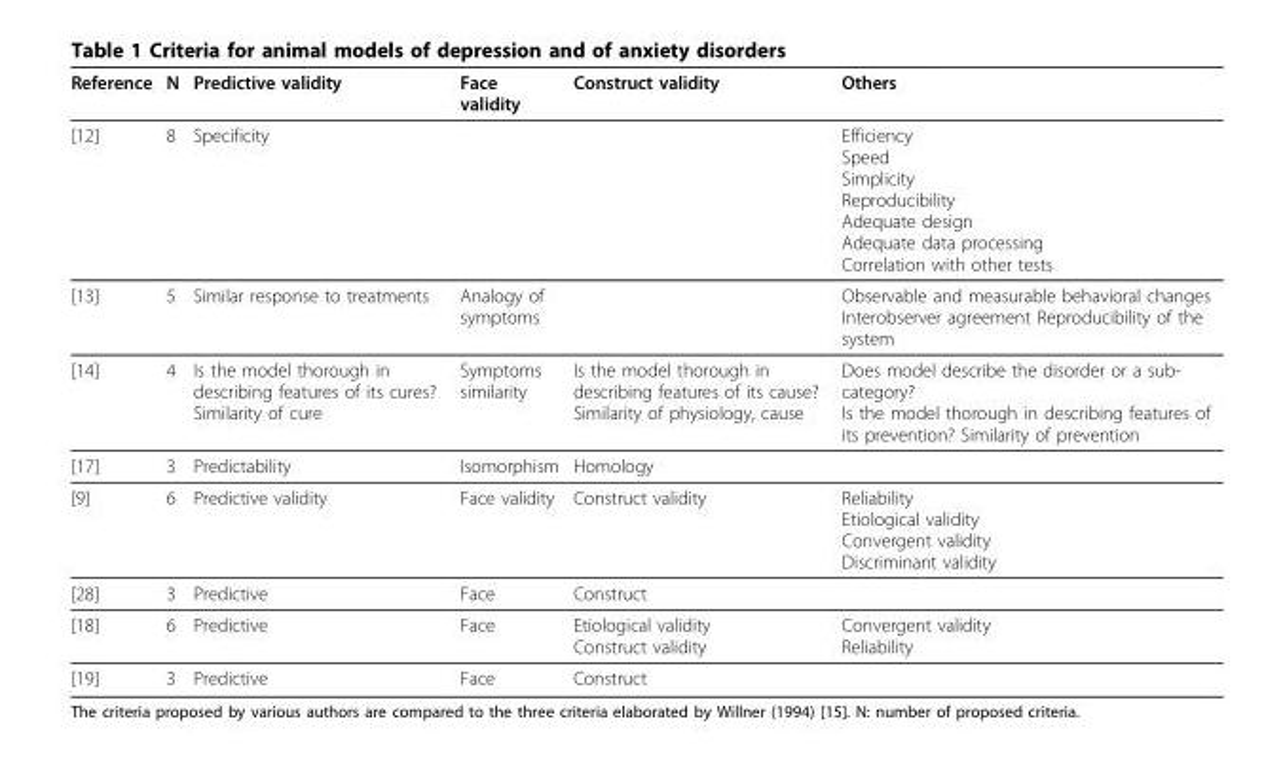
<table><thead><tr><td>Reference</td><td>N</td><td>Predictive validity</td><td>Face validity</td><td>Construct validity</td><td>Others</td></tr></thead><tbody><tr><td>[12]</td><td>8</td><td>Specificity</td><td></td><td></td><td>Efficiency Speed Simplicity Reproducibility Adequate design Adequate data processing Correlation with other tests</td></tr><tr><td>[13]</td><td>5</td><td>Similar response to treatments</td><td>Analogy of symptoms</td><td></td><td>Observable and measurable behavioral changes Interobserver agreement Reproducibility of the system</td></tr><tr><td>[14]</td><td>4</td><td>Is the model thorough in describing features of its cures? Similarity of cure</td><td>Symptoms similarity</td><td>Is the model thorough in describing features of its cause? Similarity of physiology, cause</td><td>Does model describe the disorder or a sub- category? Is the model thorough in describing features of its prevention? Similarity of prevention</td></tr><tr><td>[17]</td><td>3</td><td>Predictability</td><td>Isomorphism</td><td>Homology</td><td></td></tr><tr><td>[9]</td><td>6</td><td>Predictive validity</td><td>Face validity</td><td>Construct validity</td><td>Reliability Etiological validity Convergent validity Discriminant validity</td></tr><tr><td>[28]</td><td>3</td><td>Predictive</td><td>Face</td><td>Construct</td><td></td></tr><tr><td>[18]</td><td>6</td><td>Predictive</td><td>Face</td><td>Etiological validity Construct validity</td><td>Convergent validity Reliability</td></tr><tr><td>[19]</td><td>3</td><td>Predictive</td><td>Face</td><td>Construct</td><td></td></tr></tbody></table>